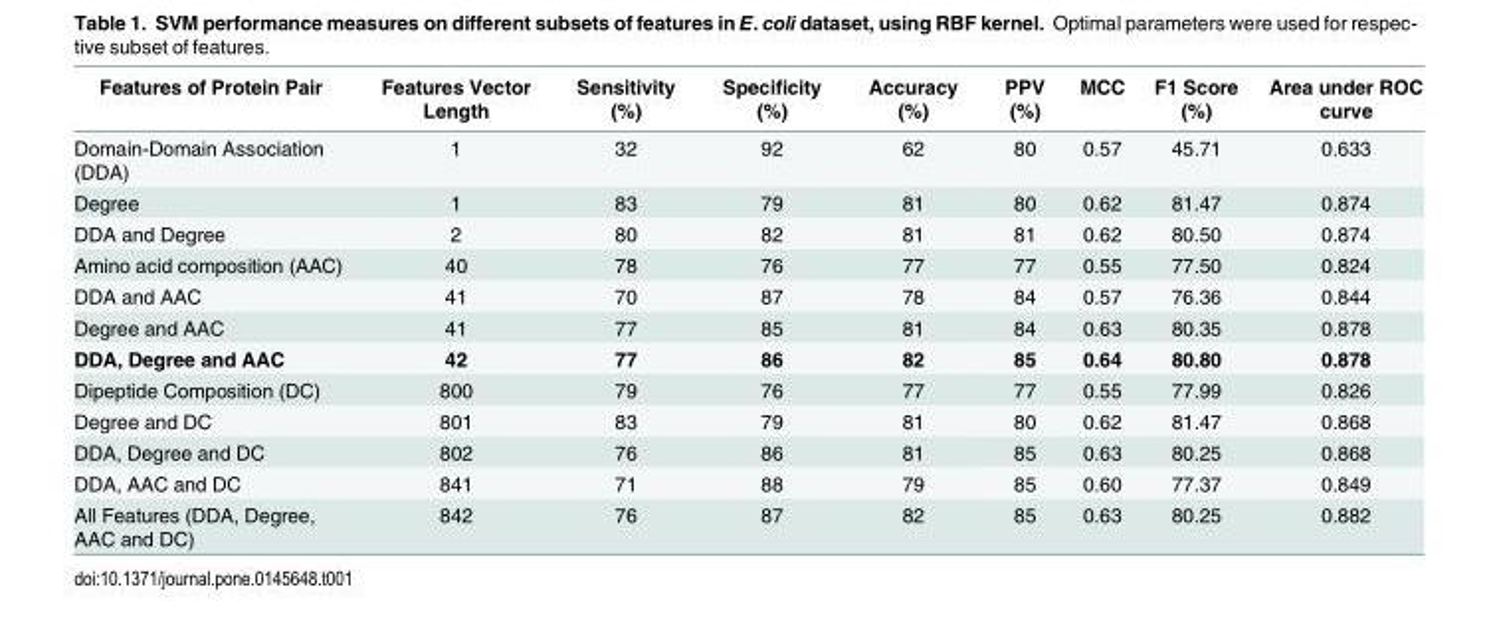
<table><thead><tr><td>Features of Protein Pair</td><td>Features Vector Length</td><td>Sensitivity (%)</td><td>Specificity (%)</td><td>Accuracy (%)</td><td>PPV (%)</td><td>MCC</td><td>F1 Score (%)</td><td>Area under ROC curve</td></tr></thead><tbody><tr><td>Domain-Domain Association (DDA)</td><td>1</td><td>32</td><td>92</td><td>62</td><td>80</td><td>0.57</td><td>45.71</td><td>0.633</td></tr><tr><td>Degree</td><td>1</td><td>83</td><td>79</td><td>81</td><td>80</td><td>0.62</td><td>81.47</td><td>0.874</td></tr><tr><td>DDA and Degree</td><td>2</td><td>80</td><td>82</td><td>81</td><td>81</td><td>0.62</td><td>80.50</td><td>0.874</td></tr><tr><td>Amino acid composition (AAC)</td><td>40</td><td>78</td><td>76</td><td>77</td><td>77</td><td>0.55</td><td>77.50</td><td>0.824</td></tr><tr><td>DDA and AAC</td><td>41</td><td>70</td><td>87</td><td>78</td><td>84</td><td>0.57</td><td>76.36</td><td>0.844</td></tr><tr><td>Degree and AAC</td><td>41</td><td>77</td><td>85</td><td>81</td><td>84</td><td>0.63</td><td>80.35</td><td>0.878</td></tr><tr><td>DDA, Degree and AAC</td><td>42</td><td>77</td><td>86</td><td>82</td><td>85</td><td>0.64</td><td>80.80</td><td>0.878</td></tr><tr><td>Dipeptide Composition (DC)</td><td>800</td><td>79</td><td>76</td><td>77</td><td>77</td><td>0.55</td><td>77.99</td><td>0.826</td></tr><tr><td>Degree and DC</td><td>801</td><td>83</td><td>79</td><td>81</td><td>80</td><td>0.62</td><td>81.47</td><td>0.868</td></tr><tr><td>DDA, Degree and DC</td><td>802</td><td>76</td><td>86</td><td>81</td><td>85</td><td>0.63</td><td>80.25</td><td>0.868</td></tr><tr><td>DDA, AAC and DC</td><td>841</td><td>71</td><td>88</td><td>79</td><td>85</td><td>0.60</td><td>77.37</td><td>0.849</td></tr><tr><td>All Features (DDA, Degree, AAC and DC)</td><td>842</td><td>76</td><td>87</td><td>82</td><td>85</td><td>0.63</td><td>80.25</td><td>0.882</td></tr></tbody></table>